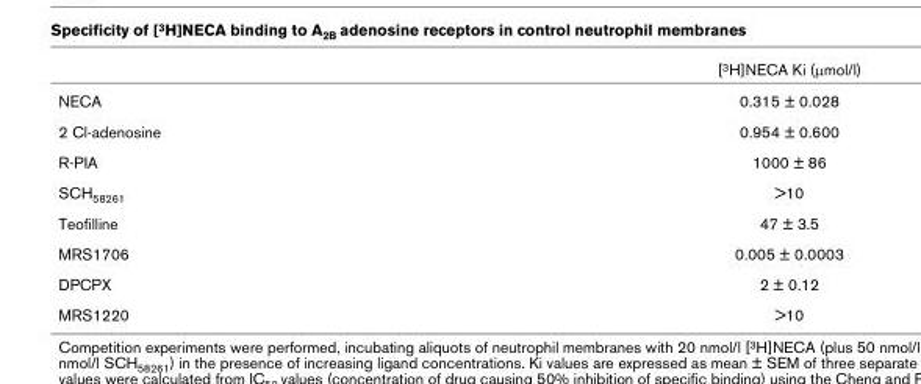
<table><thead><tr><td></td><td>[3H]NECA Ki (µmol/l)</td></tr></thead><tbody><tr><td>NECA</td><td>0.315 ± 0.028</td></tr><tr><td>2 Cl-adenosine</td><td>0.954 ± 0.600</td></tr><tr><td>R-PIA</td><td>1000 ± 86</td></tr><tr><td>SCH58261</td><td>&gt;10</td></tr><tr><td>Teofilline</td><td>47 ± 3.5</td></tr><tr><td>MRS1706</td><td>0.005 ± 0.0003</td></tr><tr><td>DPCPX</td><td>2 ± 0.12</td></tr><tr><td>MRS1220</td><td>&gt;10</td></tr></tbody></table>